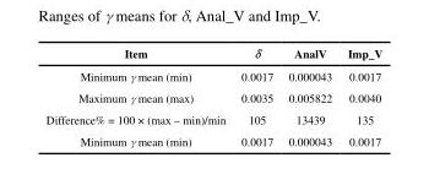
<table><thead><tr><td>Item</td><td>δ</td><td>AnalV</td><td>Imp_V</td></tr></thead><tbody><tr><td>Minimum γ mean (min)</td><td>0.0017</td><td>0.000043</td><td>0.0017</td></tr><tr><td>Maximum γ mean (max)</td><td>0.0035</td><td>0.005822</td><td>0.0040</td></tr><tr><td>Difference% = 100 × (max – min)/min</td><td>105</td><td>13439</td><td>135</td></tr><tr><td>Minimum γ mean (min)</td><td>0.0017</td><td>0.000043</td><td>0.0017</td></tr></tbody></table>